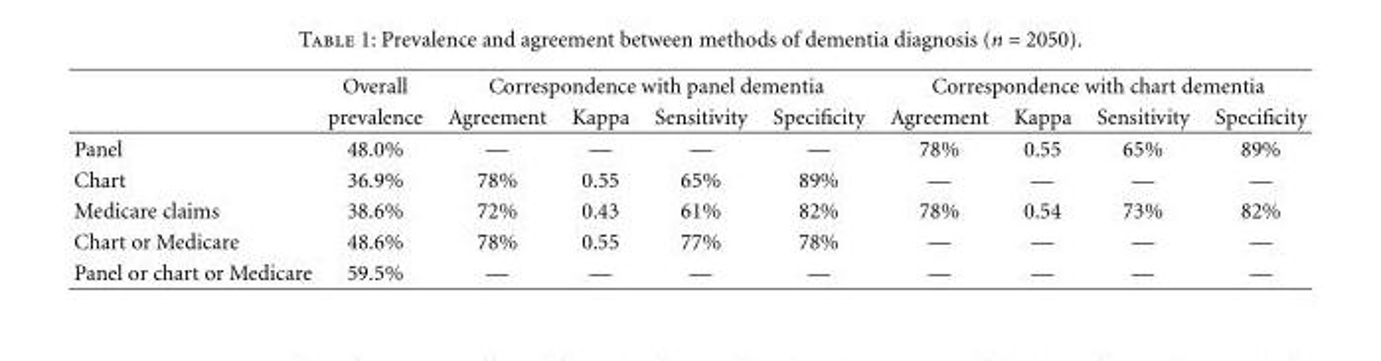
<table><thead><tr><td rowspan="2"></td><td rowspan="2">Overall prevalence</td><td colspan="4">Correspondence with panel dementia</td><td colspan="4">Correspondence with chart dementia</td></tr><tr><td>Agreement</td><td>Kappa</td><td>Sensitivity</td><td>Specificity</td><td>Agreement</td><td>Kappa</td><td>Sensitivity</td><td>Specificity</td></tr></thead><tbody><tr><td>Panel</td><td>48.0%</td><td>—</td><td>—</td><td>—</td><td>—</td><td>78%</td><td>0.55</td><td>65%</td><td>89%</td></tr><tr><td>Chart</td><td>36.9%</td><td>78%</td><td>0.55</td><td>65%</td><td>89%</td><td>—</td><td>—</td><td>—</td><td>—</td></tr><tr><td>Medicare claims</td><td>38.6%</td><td>72%</td><td>0.43</td><td>61%</td><td>82%</td><td>78%</td><td>0.54</td><td>73%</td><td>82%</td></tr><tr><td>Chart or Medicare</td><td>48.6%</td><td>78%</td><td>0.55</td><td>77%</td><td>78%</td><td>—</td><td>—</td><td>—</td><td>—</td></tr><tr><td>Panel or chart or Medicare</td><td>59.5%</td><td>—</td><td>—</td><td>—</td><td>—</td><td>—</td><td>—</td><td>—</td><td>—</td></tr></tbody></table>